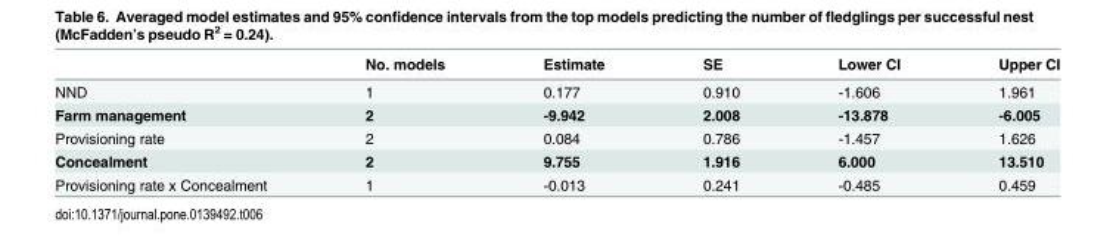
<table><thead><tr><td></td><td>No. models</td><td>Estimate</td><td>SE</td><td>Lower CI</td><td>Upper CI</td></tr></thead><tbody><tr><td>NND</td><td>1</td><td>0.177</td><td>0.910</td><td>-1.606</td><td>1.961</td></tr><tr><td>Farm management</td><td>2</td><td>-9.942</td><td>2.008</td><td>-13.878</td><td>-6.005</td></tr><tr><td>Provisioning rate</td><td>2</td><td>0.084</td><td>0.786</td><td>-1.457</td><td>1.626</td></tr><tr><td>Concealment</td><td>2</td><td>9.755</td><td>1.916</td><td>6.000</td><td>13.510</td></tr><tr><td>Provisioning rate x Concealment</td><td>1</td><td>-0.013</td><td>0.241</td><td>-0.485</td><td>0.459</td></tr></tbody></table>